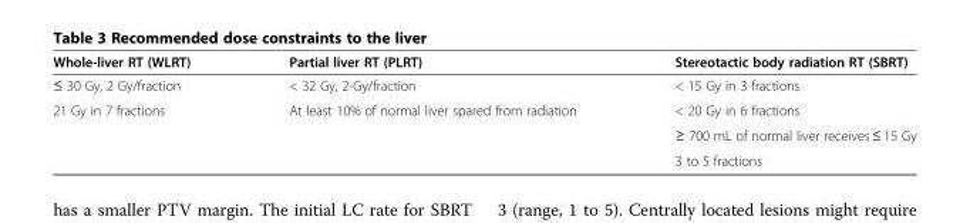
<table><thead><tr><td>Whole-liver RT (WLRT)</td><td>Partial liver RT (PLRT)</td><td>Stereotactic body radiation RT (SBRT)</td></tr></thead><tbody><tr><td>≤ 30 Gy, 2 Gy/fraction</td><td>&lt; 32 Gy, 2-Gy/fraction</td><td>&lt; 15 Gy in 3 fractions</td></tr><tr><td rowspan="3">21 Gy in 7 fractions</td><td>At least 10% of normal liver spared from radiation</td><td>&lt; 20 Gy in 6 fractions</td></tr><tr><td></td><td>≥ 700 mL of normal liver receives ≤ 15 Gy</td></tr><tr><td></td><td>3 to 5 fractions</td></tr></tbody></table>